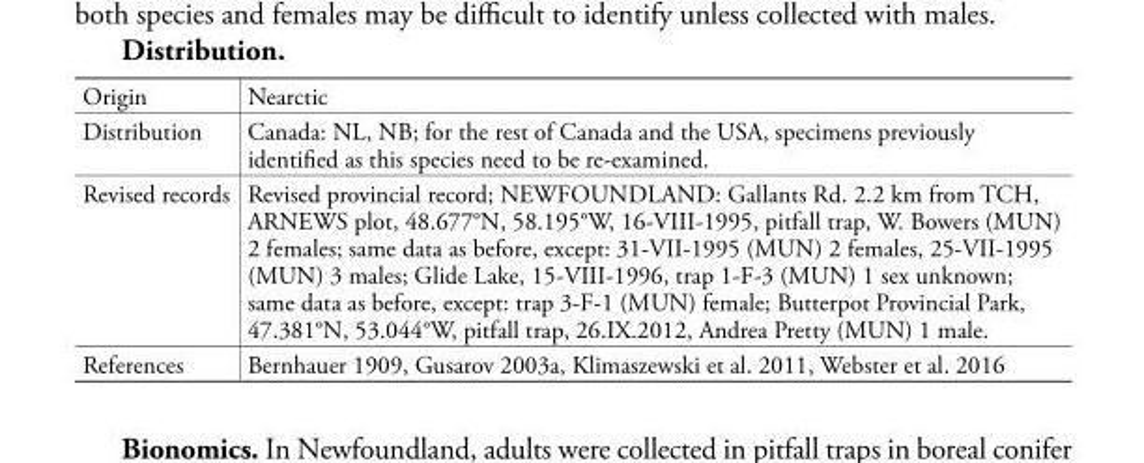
<table><tbody><tr><td>Origin</td><td>Nearctic</td></tr><tr><td>Distribution</td><td>Canada: NL, NB; for the rest of Canada and the USA, specimens previously identified as this species need to be re-examined.</td></tr><tr><td>Revised records</td><td>Revised provincial record; NEWFOUNDLAND: Gallants Rd. 2.2 km from TCH, ARNEWS plot, 48.677°N, 58.195°W, 16-VIII-1995, pitfall trap, W. Bowers (MUN) 2 females; same data as before, except: 31-VII-1995 (MUN) 2 females, 25-VII-1995 (MUN) 3 males; Glide Lake, 15-VIII-1996, trap 1-F-3 (MUN) 1 sex unknown; same data as before, except: trap 3-F-1 (MUN) female; Butterpot Provincial Park, 47.381°N, 53.044°W, pitfall trap, 26.IX.2012, Andrea Pretty (MUN) 1 male.</td></tr><tr><td>References</td><td>Bernhauer 1909, Gusarov 2003a, Klimaszewski et al. 2011, Webster et al. 2016</td></tr></tbody></table>